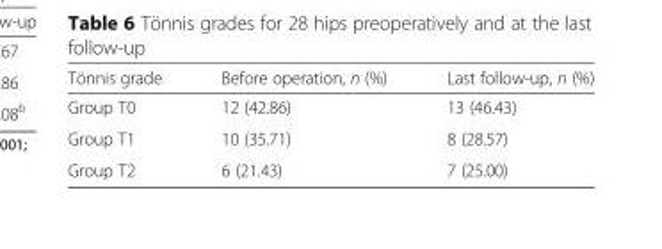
<table><thead><tr><td>Tönnis grade</td><td>Before operation, n (%)</td><td>Last follow-up, n (%)</td></tr></thead><tbody><tr><td>Group T0</td><td>12 (42.86)</td><td>13 (46.43)</td></tr><tr><td>Group T1</td><td>10 (35.71)</td><td>8 (28.57)</td></tr><tr><td>Group T2</td><td>6 (21.43)</td><td>7 (25.00)</td></tr></tbody></table>